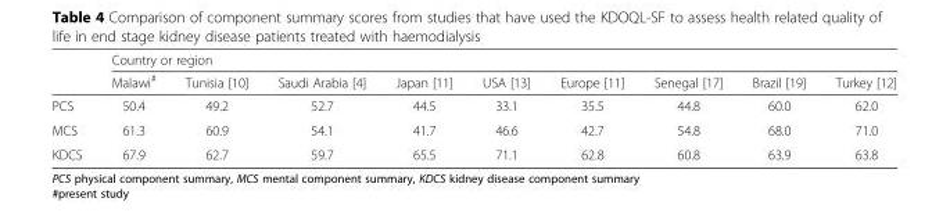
<table><thead><tr><td rowspan="2"></td><td colspan="9">Country or region</td></tr><tr><td>Malawi<sup>#</sup></td><td>Tunisia [10]</td><td>Saudi Arabia [4]</td><td>Japan [11]</td><td>USA [13]</td><td>Europe [11]</td><td>Senegal [17]</td><td>Brazil [19]</td><td>Turkey [12]</td></tr></thead><tbody><tr><td>PCS</td><td>50.4</td><td>49.2</td><td>52.7</td><td>44.5</td><td>33.1</td><td>35.5</td><td>44.8</td><td>60.0</td><td>62.0</td></tr><tr><td>MCS</td><td>61.3</td><td>60.9</td><td>54.1</td><td>41.7</td><td>46.6</td><td>42.7</td><td>54.8</td><td>68.0</td><td>71.0</td></tr><tr><td>KDCS</td><td>67.9</td><td>62.7</td><td>59.7</td><td>65.5</td><td>71.1</td><td>62.8</td><td>60.8</td><td>63.9</td><td>63.8</td></tr></tbody></table>